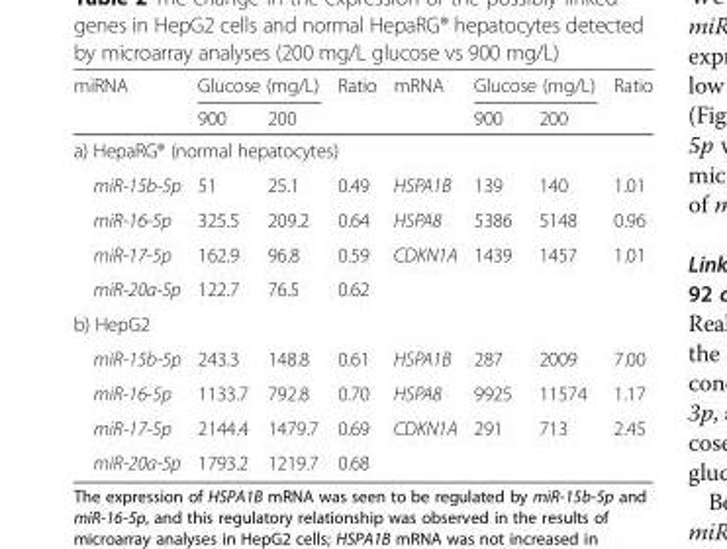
<table><thead><tr><td rowspan="2">miRNA</td><td colspan="2">Glucose (mg/L)</td><td rowspan="2">Ratio</td><td rowspan="2">mRNA</td><td colspan="2">Glucose (mg/L)</td><td rowspan="2">Ratio</td></tr><tr><td>900</td><td>200</td><td>900</td><td>200</td></tr></thead><tbody><tr><td colspan="8">a) HepaRG® (normal hepatocytes)</td></tr><tr><td>miR-15b-5p</td><td>51</td><td>25.1</td><td>0.49</td><td>HSPA1B</td><td>139</td><td>140</td><td>1.01</td></tr><tr><td>miR-16-5p</td><td>325.5</td><td>209.2</td><td>0.64</td><td>HSPA8</td><td>5386</td><td>5148</td><td>0.96</td></tr><tr><td>miR-17-5p</td><td>162.9</td><td>96.8</td><td>0.59</td><td>CDKN1A</td><td>1439</td><td>1457</td><td>1.01</td></tr><tr><td>miR-20a-5p</td><td>122.7</td><td>76.5</td><td>0.62</td><td></td><td></td><td></td><td></td></tr><tr><td colspan="8">b) HepG2</td></tr><tr><td>miR-15b-5p</td><td>243.3</td><td>148.8</td><td>0.61</td><td>HSPA1B</td><td>287</td><td>2009</td><td>7.00</td></tr><tr><td>miR-16-5p</td><td>1133.7</td><td>792.8</td><td>0.70</td><td>HSPA8</td><td>9925</td><td>11574</td><td>1.17</td></tr><tr><td>miR-17-5p</td><td>2144.4</td><td>1479.7</td><td>0.69</td><td>CDKN1A</td><td>291</td><td>713</td><td>2.45</td></tr><tr><td>miR-20a-5p</td><td>1793.2</td><td>1219.7</td><td>0.68</td><td></td><td></td><td></td><td></td></tr></tbody></table>